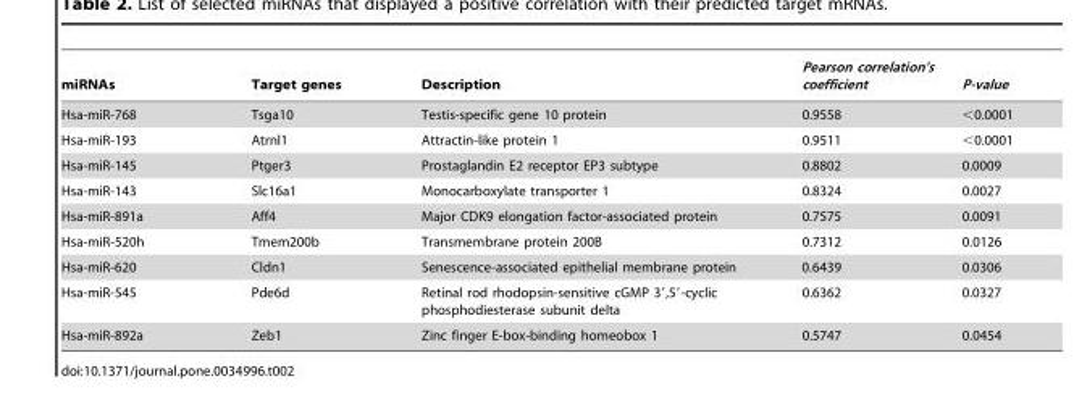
<table><thead><tr><td>miRNAs</td><td>Target genes</td><td>Description</td><td>Pearson correlation’s coefficient</td><td>P-value</td></tr></thead><tbody><tr><td>Hsa-miR-768</td><td>Tsga10</td><td>Testis-specific gene 10 protein</td><td>0.9558</td><td>&lt;0.0001</td></tr><tr><td>Hsa-miR-193</td><td>Atrnl1</td><td>Attractin-like protein 1</td><td>0.9511</td><td>&lt;0.0001</td></tr><tr><td>Hsa-miR-145</td><td>Ptger3</td><td>Prostaglandin E2 receptor EP3 subtype</td><td>0.8802</td><td>0.0009</td></tr><tr><td>Hsa-miR-143</td><td>Slc16a1</td><td>Monocarboxylate transporter 1</td><td>0.8324</td><td>0.0027</td></tr><tr><td>Hsa-miR-891a</td><td>Aff4</td><td>Major CDK9 elongation factor-associated protein</td><td>0.7575</td><td>0.0091</td></tr><tr><td>Hsa-miR-520h</td><td>Tmem200b</td><td>Transmembrane protein 200B</td><td>0.7312</td><td>0.0126</td></tr><tr><td>Hsa-miR-620</td><td>Cldn1</td><td>Senescence-associated epithelial membrane protein</td><td>0.6439</td><td>0.0306</td></tr><tr><td>Hsa-miR-545</td><td>Pde6d</td><td>Retinal rod rhodopsin-sensitive cGMP 3′,5′-cyclic phosphodiesterase subunit delta</td><td>0.6362</td><td>0.0327</td></tr><tr><td>Hsa-miR-892a</td><td>Zeb1</td><td>Zinc finger E-box-binding homeobox 1</td><td>0.5747</td><td>0.0454</td></tr></tbody></table>